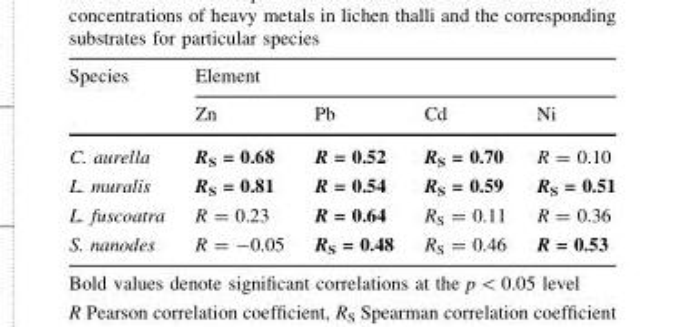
<table><thead><tr><td rowspan="2">Species</td><td colspan="4">Element</td></tr><tr><td>Zn</td><td>Pb</td><td>Cd</td><td>Ni</td></tr></thead><tbody><tr><td>C. aurella</td><td>R<sub>S</sub> = 0.68</td><td>R = 0.52</td><td>R<sub>S</sub> = 0.70</td><td>R = 0.10</td></tr><tr><td>L. muralis</td><td>R<sub>S</sub> = 0.81</td><td>R = 0.54</td><td>R<sub>S</sub> = 0.59</td><td>R<sub>S</sub> = 0.51</td></tr><tr><td>L. fuscoatra</td><td>R = 0.23</td><td>R = 0.64</td><td>R<sub>S</sub> = 0.11</td><td>R = 0.36</td></tr><tr><td>S. nanodes</td><td>R = -0.05</td><td>R<sub>S</sub> = 0.48</td><td>R<sub>S</sub> = 0.46</td><td>R = 0.53</td></tr></tbody></table>